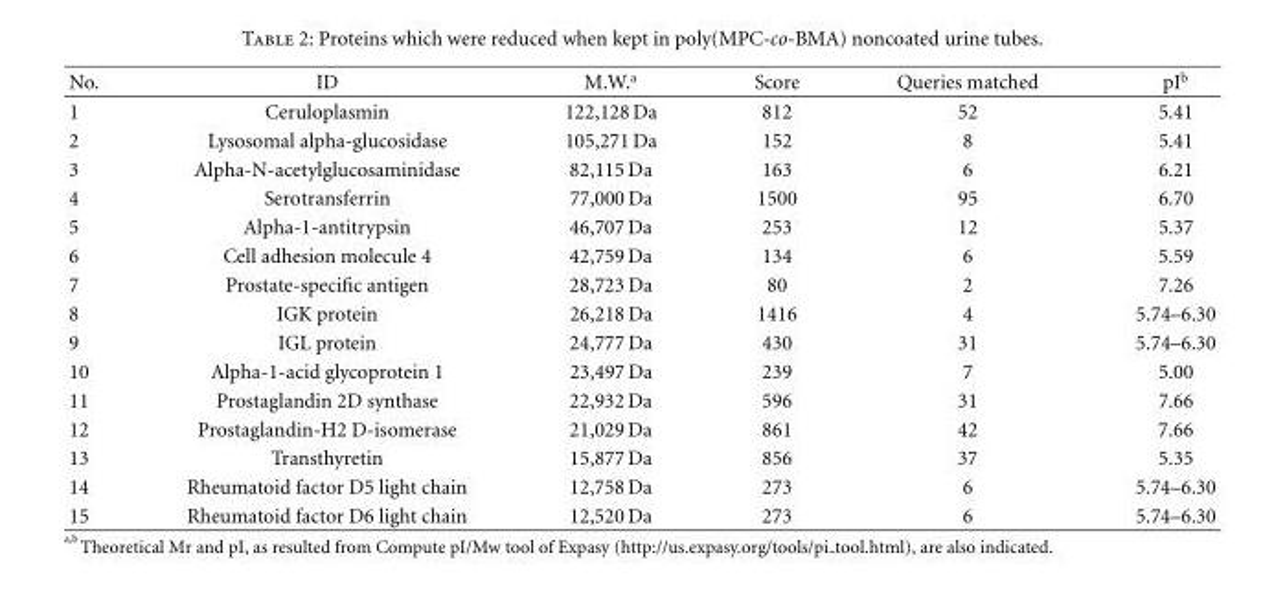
<table><thead><tr><td>No.</td><td>ID</td><td>M.W.<sup>a</sup></td><td>Score</td><td>Queries matched</td><td>pI<sup>b</sup></td></tr></thead><tbody><tr><td>1</td><td>Ceruloplasmin</td><td>122,128 Da</td><td>812</td><td>52</td><td>5.41</td></tr><tr><td>2</td><td>Lysosomal alpha-glucosidase</td><td>105,271 Da</td><td>152</td><td>8</td><td>5.41</td></tr><tr><td>3</td><td>Alpha-N-acetylglucosaminidase</td><td>82,115 Da</td><td>163</td><td>6</td><td>6.21</td></tr><tr><td>4</td><td>Serotransferrin</td><td>77,000 Da</td><td>1500</td><td>95</td><td>6.70</td></tr><tr><td>5</td><td>Alpha-1-antitrypsin</td><td>46,707 Da</td><td>253</td><td>12</td><td>5.37</td></tr><tr><td>6</td><td>Cell adhesion molecule 4</td><td>42,759 Da</td><td>134</td><td>6</td><td>5.59</td></tr><tr><td>7</td><td>Prostate-specific antigen</td><td>28,723 Da</td><td>80</td><td>2</td><td>7.26</td></tr><tr><td>8</td><td>IGK protein</td><td>26,218 Da</td><td>1416</td><td>4</td><td>5.74–6.30</td></tr><tr><td>9</td><td>IGL protein</td><td>24,777 Da</td><td>430</td><td>31</td><td>5.74–6.30</td></tr><tr><td>10</td><td>Alpha-1-acid glycoprotein 1</td><td>23,497 Da</td><td>239</td><td>7</td><td>5.00</td></tr><tr><td>11</td><td>Prostaglandin 2D synthase</td><td>22,932 Da</td><td>596</td><td>31</td><td>7.66</td></tr><tr><td>12</td><td>Prostaglandin-H2 D-isomerase</td><td>21,029 Da</td><td>861</td><td>42</td><td>7.66</td></tr><tr><td>13</td><td>Transthyretin</td><td>15,877 Da</td><td>856</td><td>37</td><td>5.35</td></tr><tr><td>14</td><td>Rheumatoid factor D5 light chain</td><td>12,758 Da</td><td>273</td><td>6</td><td>5.74–6.30</td></tr><tr><td>15</td><td>Rheumatoid factor D6 light chain</td><td>12,520 Da</td><td>273</td><td>6</td><td>5.74–6.30</td></tr></tbody></table>